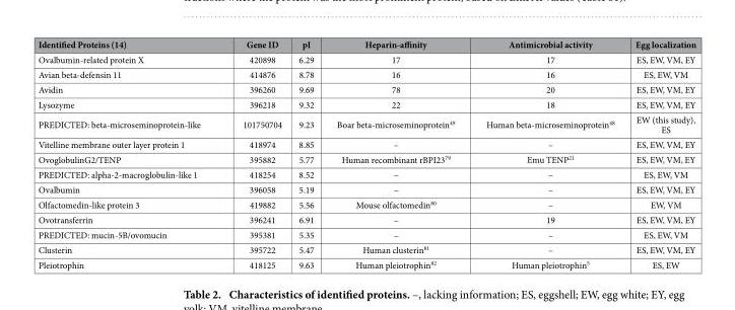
<table><thead><tr><td>Identified Proteins (14)</td><td>Gene ID</td><td>pI</td><td>Heparin-affinity</td><td>Antimicrobial activity</td><td>Egg localization</td></tr></thead><tbody><tr><td>Ovalbumin-related protein X</td><td>420898</td><td>6.29</td><td>17</td><td>17</td><td>ES, EW, VM, EY</td></tr><tr><td>Avian beta-defensin 11</td><td>414876</td><td>8.78</td><td>16</td><td>16</td><td>ES, EW, VM</td></tr><tr><td>Avidin</td><td>396260</td><td>9.69</td><td>78</td><td>20</td><td>ES, EW, VM, EY</td></tr><tr><td>Lysozyme</td><td>396218</td><td>9.32</td><td>22</td><td>18</td><td>ES, EW, VM, EY</td></tr><tr><td>PREDICTED: beta-microseminoprotein-like</td><td>101750704</td><td>9.23</td><td>Boar beta-microseminoprotein<sup>49</sup></td><td>Human beta-microseminoprotein<sup>48</sup></td><td>EW (this study), ES</td></tr><tr><td>Vitelline membrane outer layer protein 1</td><td>418974</td><td>8.85</td><td>–</td><td>–</td><td>ES, EW, VM, EY</td></tr><tr><td>OvoglobulinG2/TENP</td><td>395882</td><td>5.77</td><td>Human recombinant rBPI23<sup>79</sup></td><td>Emu TENP<sup>21</sup></td><td>ES, EW, VM, EY</td></tr><tr><td>PREDICTED: alpha-2-macroglobulin-like 1</td><td>418254</td><td>8.52</td><td>–</td><td>–</td><td>ES, EW, VM</td></tr><tr><td>Ovalbumin</td><td>396058</td><td>5.19</td><td>–</td><td>–</td><td>ES, EW, VM, EY</td></tr><tr><td>Olfactomedin-like protein 3</td><td>419882</td><td>5.56</td><td>Mouse olfactomedin<sup>80</sup></td><td>–</td><td>EW, VM</td></tr><tr><td>Ovotransferrin</td><td>396241</td><td>6.91</td><td>–</td><td>19</td><td>ES, EW, VM, EY</td></tr><tr><td>PREDICTED: mucin-5B/ovomucin</td><td>395381</td><td>5.35</td><td>–</td><td>–</td><td>ES, EW, VM</td></tr><tr><td>Clusterin</td><td>395722</td><td>5.47</td><td>Human clusterin<sup>81</sup></td><td>–</td><td>ES, EW, VM, EY</td></tr><tr><td>Pleiotrophin</td><td>418125</td><td>9.63</td><td>Human pleiotrophin<sup>82</sup></td><td>Human pleiotrophin<sup>5</sup></td><td>ES, EW</td></tr></tbody></table>